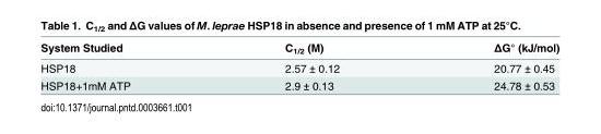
<table><thead><tr><td>System Studied</td><td>C<sub>1/2</sub> (M)</td><td>ΔG° (kJ/mol)</td></tr></thead><tbody><tr><td>HSP18</td><td>2.57 ± 0.12</td><td>20.77 ± 0.45</td></tr><tr><td>HSP18+1mM ATP</td><td>2.9 ± 0.13</td><td>24.78 ± 0.53</td></tr></tbody></table>